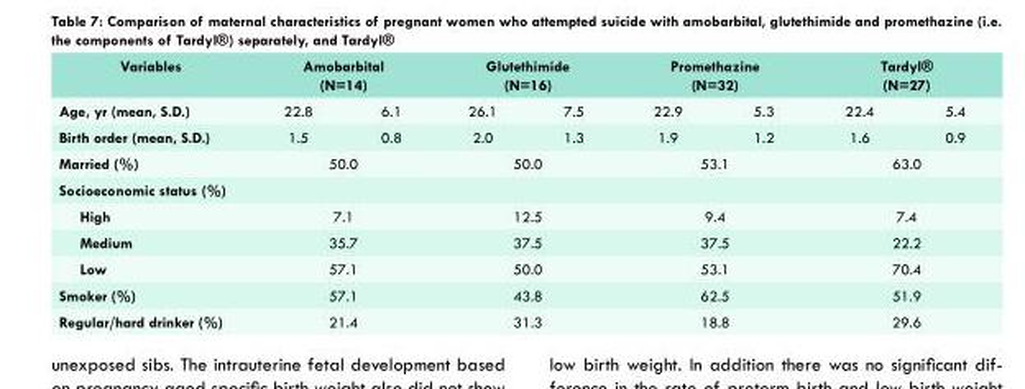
<table><thead><tr><td rowspan="2">Variables Age, yr (mean, S.D.)</td><td colspan="2">Amobarbital (N=14)</td><td colspan="2">Glutethimide (N=16)</td><td colspan="2">Promethazine (N=32)</td><td colspan="2">Tardyl® (N=27)</td></tr><tr><td>22.8</td><td>6.1</td><td>26.1</td><td>7.5</td><td>22.9</td><td>5.3</td><td>22.4</td><td>5.4</td></tr></thead><tbody><tr><td>Birth order (mean, S.D.)</td><td>1.5</td><td>0.8</td><td>2.0</td><td>1.3</td><td>1.9</td><td>1.2</td><td>1.6</td><td>0.9</td></tr><tr><td>Married (%)</td><td colspan="2">50.0</td><td colspan="2">50.0</td><td colspan="2">53.1</td><td colspan="2">63.0</td></tr><tr><td colspan="9">Socioeconomic status (%)</td></tr><tr><td>High</td><td colspan="2">7.1</td><td colspan="2">12.5</td><td colspan="2">9.4</td><td colspan="2">7.4</td></tr><tr><td>Medium</td><td colspan="2">35.7</td><td colspan="2">37.5</td><td colspan="2">37.5</td><td colspan="2">22.2</td></tr><tr><td>Low</td><td colspan="2">57.1</td><td colspan="2">50.0</td><td colspan="2">53.1</td><td colspan="2">70.4</td></tr><tr><td>Smoker (%)</td><td colspan="2">57.1</td><td colspan="2">43.8</td><td colspan="2">62.5</td><td colspan="2">51.9</td></tr><tr><td>Regular/hard drinker (%)</td><td colspan="2">21.4</td><td colspan="2">31.3</td><td colspan="2">18.8</td><td colspan="2">29.6</td></tr></tbody></table>